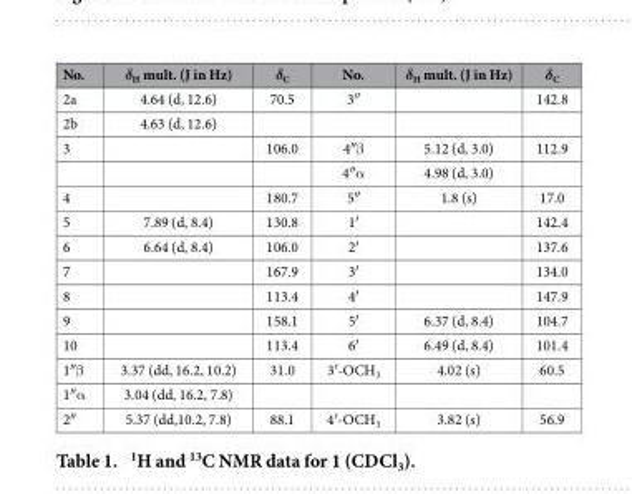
<table><thead><tr><td>No.</td><td>δ<sub>H</sub> mult. (J in Hz)</td><td>δ<sub>C</sub></td><td>No.</td><td>δ<sub>H</sub> mult. (J in Hz)</td><td>δ<sub>C</sub></td></tr></thead><tbody><tr><td>2a</td><td>4.64 (d, 12.6)</td><td>70.5</td><td>3″</td><td></td><td>142.8</td></tr><tr><td>2b</td><td>4.63 (d, 12.6)</td><td></td><td></td><td></td><td></td></tr><tr><td rowspan="2">3</td><td></td><td>106.0</td><td>4″ β</td><td>5.12 (d, 3.0)</td><td>112.9</td></tr><tr><td></td><td></td><td>4″ α</td><td>4.98 (d, 3.0)</td><td></td></tr><tr><td>4</td><td></td><td>180.7</td><td>5″</td><td>1.8 (s)</td><td>17.0</td></tr><tr><td>5</td><td>7.89 (d, 8.4)</td><td>130.8</td><td>1′</td><td></td><td>142.4</td></tr><tr><td>6</td><td>6.64 (d, 8.4)</td><td>106.0</td><td>2′</td><td></td><td>137.6</td></tr><tr><td>7</td><td></td><td>167.9</td><td>3′</td><td></td><td>134.0</td></tr><tr><td>8</td><td></td><td>113.4</td><td>4′</td><td></td><td>147.9</td></tr><tr><td>9</td><td></td><td>158.1</td><td>5′</td><td>6.37 (d, 8.4)</td><td>104.7</td></tr><tr><td>10</td><td></td><td>113.4</td><td>6′</td><td>6.49 (d, 8.4)</td><td>101.4</td></tr><tr><td>1″ β</td><td>3.37 (dd, 16.2, 10.2)</td><td>31.0</td><td>3′ -OCH<sub>3</sub></td><td>4.02 (s)</td><td>60.5</td></tr><tr><td>1″ α</td><td>3.04 (dd, 16.2, 7.8)</td><td></td><td></td><td></td><td></td></tr><tr><td>2″</td><td>5.37 (dd,10.2, 7.8)</td><td>88.1</td><td>4′ -OCH<sub>3</sub></td><td>3.82 (s)</td><td>56.9</td></tr></tbody></table>